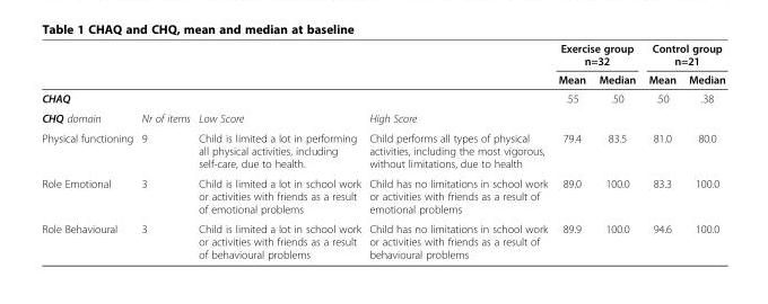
<table><thead><tr><td rowspan="2"></td><td rowspan="2"></td><td rowspan="2"></td><td rowspan="2"></td><td colspan="2">Exercise group n=32</td><td colspan="2">Control group n=21</td></tr><tr><td>Mean</td><td>Median</td><td>Mean</td><td>Median</td></tr></thead><tbody><tr><td>CHAQ</td><td></td><td></td><td></td><td>.55</td><td>.50</td><td>.50</td><td>.38</td></tr><tr><td>CHQ domain</td><td>Nr of items</td><td>Low Score</td><td>High Score</td><td></td><td></td><td></td><td></td></tr><tr><td>Physical functioning</td><td>9</td><td>Child is limited a lot in performing all physical activities, including self-care, due to health.</td><td>Child performs all types of physical activities, including the most vigorous, without limitations, due to health</td><td>79.4</td><td>83.5</td><td>81.0</td><td>80.0</td></tr><tr><td>Role Emotional</td><td>3</td><td>Child is limited a lot in school work or activities with friends as a result of emotional problems</td><td>Child has no limitations in school work or activities with friends as a result of emotional problems</td><td>89.0</td><td>100.0</td><td>83.3</td><td>100.0</td></tr><tr><td>Role Behavioural</td><td>3</td><td>Child is limited a lot in school work or activities with friends as a result of behavioural problems</td><td>Child has no limitations in school work or activities with friends as a result of behavioural problems</td><td>89.9</td><td>100.0</td><td>94.6</td><td>100.0</td></tr></tbody></table>